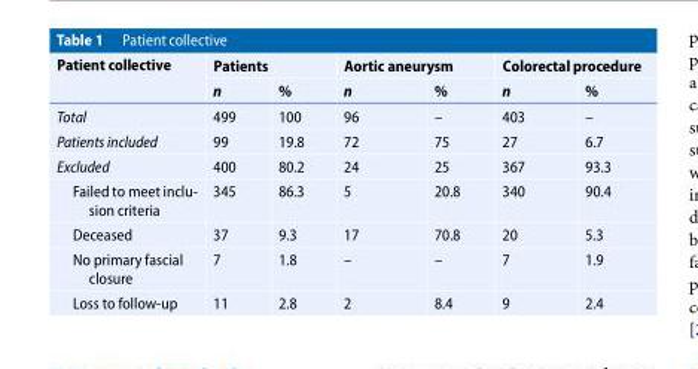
<table><thead><tr><td rowspan="2">Patient collective</td><td colspan="2">Patients</td><td colspan="2">Aortic aneurysm</td><td colspan="2">Colorectal procedure</td></tr><tr><td>n</td><td>%</td><td>n</td><td>%</td><td>n</td><td>%</td></tr></thead><tbody><tr><td>Total</td><td>499</td><td>100</td><td>96</td><td>–</td><td>403</td><td>–</td></tr><tr><td>Patients included</td><td>99</td><td>19.8</td><td>72</td><td>75</td><td>27</td><td>6.7</td></tr><tr><td>Excluded</td><td>400</td><td>80.2</td><td>24</td><td>25</td><td>367</td><td>93.3</td></tr><tr><td>Failed to meet inclu- sion criteria</td><td>345</td><td>86.3</td><td>5</td><td>20.8</td><td>340</td><td>90.4</td></tr><tr><td>Deceased</td><td>37</td><td>9.3</td><td>17</td><td>70.8</td><td>20</td><td>5.3</td></tr><tr><td>No primary fascial closure</td><td>7</td><td>1.8</td><td>–</td><td>–</td><td>7</td><td>1.9</td></tr><tr><td>Loss to follow-up</td><td>11</td><td>2.8</td><td>2</td><td>8.4</td><td>9</td><td>2.4</td></tr></tbody></table>